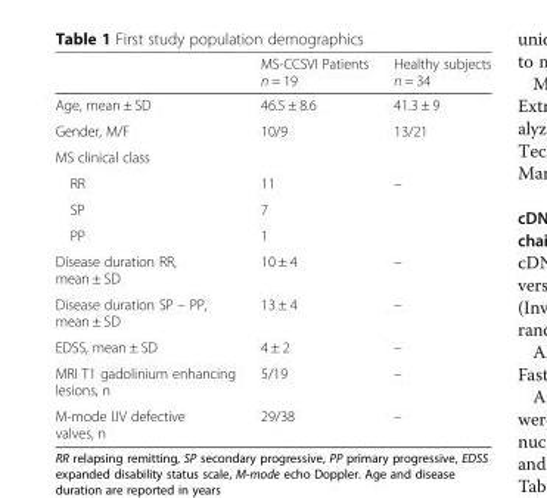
<table><thead><tr><td></td><td>MS-CCSVI Patients n = 19</td><td>Healthy subjects n = 34</td></tr></thead><tbody><tr><td>Age, mean ± SD</td><td>46.5 ± 8.6</td><td>41.3 ± 9</td></tr><tr><td>Gender, M/F</td><td>10/9</td><td>13/21</td></tr><tr><td colspan="3">MS clinical class</td></tr><tr><td>RR</td><td>11</td><td>–</td></tr><tr><td>SP</td><td>7</td><td></td></tr><tr><td>PP</td><td>1</td><td></td></tr><tr><td>Disease duration RR, mean ± SD</td><td>10 ± 4</td><td>–</td></tr><tr><td>Disease duration SP – PP, mean ± SD</td><td>13 ± 4</td><td>–</td></tr><tr><td>EDSS, mean ± SD</td><td>4 ± 2</td><td>–</td></tr><tr><td>MRI T1 gadolinium enhancing lesions, n</td><td>5/19</td><td>–</td></tr><tr><td>M-mode IJV defective valves, n</td><td>29/38</td><td>–</td></tr></tbody></table>